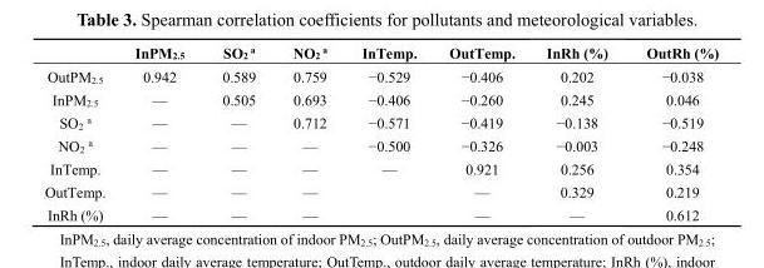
<table><thead><tr><td></td><td>InPM<sub>2.5</sub></td><td>SO<sub>2</sub> <sup>a</sup></td><td>NO<sub>2</sub> <sup>a</sup></td><td>InTemp.</td><td>OutTemp.</td><td>InRh (%)</td><td>OutRh (%)</td></tr></thead><tbody><tr><td>OutPM<sub>2.5</sub></td><td>0.942</td><td>0.589</td><td>0.759</td><td>−0.529</td><td>−0.406</td><td>0.202</td><td>−0.038</td></tr><tr><td>InPM<sub>2.5</sub></td><td>—</td><td>0.505</td><td>0.693</td><td>−0.406</td><td>−0.260</td><td>0.245</td><td>0.046</td></tr><tr><td>SO<sub>2</sub> <sup>a</sup></td><td>—</td><td>—</td><td>0.712</td><td>−0.571</td><td>−0.419</td><td>−0.138</td><td>−0.519</td></tr><tr><td>NO<sub>2</sub> <sup>a</sup></td><td>—</td><td>—</td><td>—</td><td>−0.500</td><td>−0.326</td><td>−0.003</td><td>−0.248</td></tr><tr><td>InTemp.</td><td>—</td><td>—</td><td>—</td><td>—</td><td>0.921</td><td>0.256</td><td>0.354</td></tr><tr><td>OutTemp.</td><td>—</td><td>—</td><td>—</td><td></td><td>—</td><td>0.329</td><td>0.219</td></tr><tr><td>InRh (%)</td><td>—</td><td>—</td><td>—</td><td></td><td>—</td><td>—</td><td>0.612</td></tr></tbody></table>